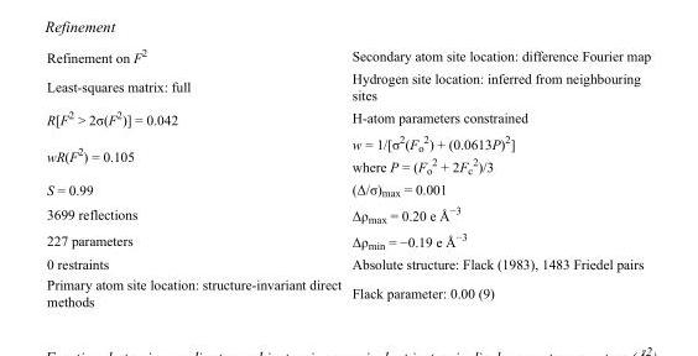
<table><tbody><tr><td>Refinement on F<sup>2</sup></td><td>Secondary atom site location: difference Fourier map</td></tr><tr><td>Least-squares matrix: full</td><td>Hydrogen site location: inferred from neighbouring sites</td></tr><tr><td>R[F<sup>2</sup> &gt; 2σ(F<sup>2</sup>)] = 0.042</td><td>H-atom parameters constrained</td></tr><tr><td>wR(F<sup>2</sup>) = 0.105</td><td>w = 1/[σ<sup>2</sup>(F<sub>o</sub> <sup>2</sup>) + (0.0613P)<sup>2</sup>] where P = (F<sub>o</sub> <sup>2</sup> + 2F<sub>c</sub> <sup>2</sup>)/3</td></tr><tr><td>S = 0.99</td><td>(Δ/σ)<sub>max</sub> = 0.001</td></tr><tr><td>3699 reflections</td><td>Δρ<sub>max</sub> = 0.20 e Å<sup>−3</sup></td></tr><tr><td>227 parameters</td><td>Δρ<sub>min</sub> = −0.19 e Å<sup>−3</sup></td></tr><tr><td>0 restraints</td><td>Absolute structure: Flack (1983), 1483 Friedel pairs</td></tr><tr><td>Primary atom site location: structure-invariant direct methods</td><td>Flack parameter: 0.00 (9)</td></tr></tbody></table>